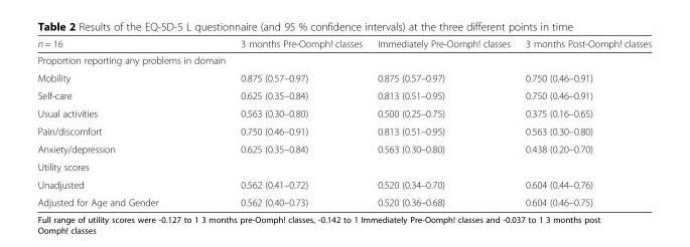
<table><thead><tr><td>n = 16</td><td>3 months Pre-Oomph! classes</td><td>Immediately Pre-Oomph! classes</td><td>3 months Post-Oomph! classes</td></tr></thead><tbody><tr><td colspan="4">Proportion reporting any problems in domain</td></tr><tr><td>Mobility</td><td>0.875 (0.57–0.97)</td><td>0.875 (0.57–0.97)</td><td>0.750 (0.46–0.91)</td></tr><tr><td>Self-care</td><td>0.625 (0.35–0.84)</td><td>0.813 (0.51–0.95)</td><td>0.750 (0.46–0.91)</td></tr><tr><td>Usual activities</td><td>0.563 (0.30–0.80)</td><td>0.500 (0.25–0.75)</td><td>0.375 (0.16–0.65)</td></tr><tr><td>Pain/discomfort</td><td>0.750 (0.46–0.91)</td><td>0.813 (0.51–0.95)</td><td>0.563 (0.30–0.80)</td></tr><tr><td>Anxiety/depression</td><td>0.625 (0.35–0.84)</td><td>0.563 (0.30–0.80)</td><td>0.438 (0.20–0.70)</td></tr><tr><td colspan="4">Utility scores</td></tr><tr><td>Unadjusted</td><td>0.562 (0.41–0.72)</td><td>0.520 (0.34–0.70)</td><td>0.604 (0.44–0.76)</td></tr><tr><td>Adjusted for Age and Gender</td><td>0.562 (0.40–0.73)</td><td>0.520 (0.36–0.68)</td><td>0.604 (0.46–0.75)</td></tr></tbody></table>